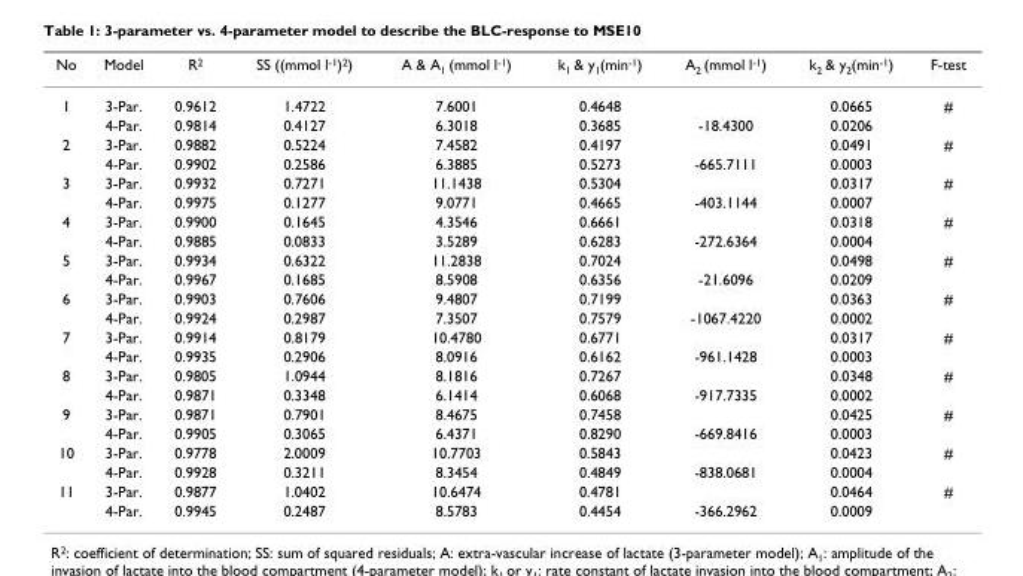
<table><thead><tr><td>No</td><td>Model</td><td>R<sup>2</sup></td><td>SS ((mmol l<sup>-1</sup>)<sup>2</sup>)</td><td>A &amp; A<sub>1</sub> (mmol l<sup>-1</sup>)</td><td>k<sub>1</sub> &amp; y<sub>1</sub>(min<sup>-1</sup>)</td><td>A<sub>2</sub> (mmol l<sup>-1</sup>)</td><td>k<sub>2</sub> &amp; y<sub>2</sub>(min<sup>-1</sup>)</td><td>F-test</td></tr></thead><tbody><tr><td rowspan="2">1</td><td>3-Par.</td><td>0.9612</td><td>1.4722</td><td>7.6001</td><td>0.4648</td><td></td><td>0.0665</td><td>#</td></tr><tr><td>4-Par.</td><td>0.9814</td><td>0.4127</td><td>6.3018</td><td>0.3685</td><td>-18.4300</td><td>0.0206</td><td></td></tr><tr><td rowspan="2">2</td><td>3-Par.</td><td>0.9882</td><td>0.5224</td><td>7.4582</td><td>0.4197</td><td></td><td>0.0491</td><td>#</td></tr><tr><td>4-Par.</td><td>0.9902</td><td>0.2586</td><td>6.3885</td><td>0.5273</td><td>-665.7111</td><td>0.0003</td><td></td></tr><tr><td rowspan="2">3</td><td>3-Par.</td><td>0.9932</td><td>0.7271</td><td>11.1438</td><td>0.5304</td><td></td><td>0.0317</td><td>#</td></tr><tr><td>4-Par.</td><td>0.9975</td><td>0.1277</td><td>9.0771</td><td>0.4665</td><td>-403.1144</td><td>0.0007</td><td></td></tr><tr><td rowspan="2">4</td><td>3-Par.</td><td>0.9900</td><td>0.1645</td><td>4.3546</td><td>0.6661</td><td></td><td>0.0318</td><td>#</td></tr><tr><td>4-Par.</td><td>0.9885</td><td>0.0833</td><td>3.5289</td><td>0.6283</td><td>-272.6364</td><td>0.0004</td><td></td></tr><tr><td rowspan="2">5</td><td>3-Par.</td><td>0.9934</td><td>0.6322</td><td>11.2838</td><td>0.7024</td><td></td><td>0.0498</td><td>#</td></tr><tr><td>4-Par.</td><td>0.9967</td><td>0.1685</td><td>8.5908</td><td>0.6356</td><td>-21.6096</td><td>0.0209</td><td></td></tr><tr><td rowspan="2">6</td><td>3-Par.</td><td>0.9903</td><td>0.7606</td><td>9.4807</td><td>0.7199</td><td></td><td>0.0363</td><td>#</td></tr><tr><td>4-Par.</td><td>0.9924</td><td>0.2987</td><td>7.3507</td><td>0.7579</td><td>-1067.4220</td><td>0.0002</td><td></td></tr><tr><td rowspan="2">7</td><td>3-Par.</td><td>0.9914</td><td>0.8179</td><td>10.4780</td><td>0.6771</td><td></td><td>0.0317</td><td>#</td></tr><tr><td>4-Par.</td><td>0.9935</td><td>0.2906</td><td>8.0916</td><td>0.6162</td><td>-961.1428</td><td>0.0003</td><td></td></tr><tr><td rowspan="2">8</td><td>3-Par.</td><td>0.9805</td><td>1.0944</td><td>8.1816</td><td>0.7267</td><td></td><td>0.0348</td><td>#</td></tr><tr><td>4-Par.</td><td>0.9871</td><td>0.3348</td><td>6.1414</td><td>0.6068</td><td>-917.7335</td><td>0.0002</td><td></td></tr><tr><td rowspan="2">9</td><td>3-Par.</td><td>0.9871</td><td>0.7901</td><td>8.4675</td><td>0.7458</td><td></td><td>0.0425</td><td>#</td></tr><tr><td>4-Par.</td><td>0.9905</td><td>0.3065</td><td>6.4371</td><td>0.8290</td><td>-669.8416</td><td>0.0003</td><td></td></tr><tr><td rowspan="2">10</td><td>3-Par.</td><td>0.9778</td><td>2.0009</td><td>10.7703</td><td>0.5843</td><td></td><td>0.0423</td><td>#</td></tr><tr><td>4-Par.</td><td>0.9928</td><td>0.3211</td><td>8.3454</td><td>0.4849</td><td>-838.0681</td><td>0.0004</td><td></td></tr><tr><td rowspan="2">11</td><td>3-Par.</td><td>0.9877</td><td>1.0402</td><td>10.6474</td><td>0.4781</td><td></td><td>0.0464</td><td>#</td></tr><tr><td>4-Par.</td><td>0.9945</td><td>0.2487</td><td>8.5783</td><td>0.4454</td><td>-366.2962</td><td>0.0009</td><td></td></tr></tbody></table>